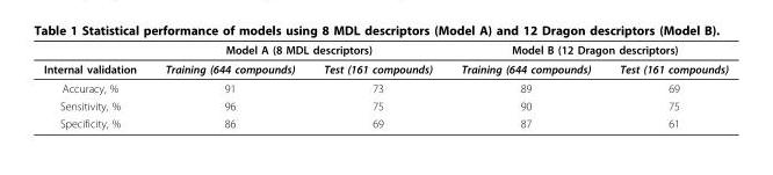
<table><thead><tr><td rowspan="2">Internal validation</td><td colspan="2">Model A (8 MDL descriptors)</td><td colspan="2">Model B (12 Dragon descriptors)</td></tr><tr><td>Training (644 compounds)</td><td>Test (161 compounds)</td><td>Training (644 compounds)</td><td>Test (161 compounds)</td></tr></thead><tbody><tr><td>Accuracy, %</td><td>91</td><td>73</td><td>89</td><td>69</td></tr><tr><td>Sensitivity, %</td><td>96</td><td>75</td><td>90</td><td>75</td></tr><tr><td>Specificity, %</td><td>86</td><td>69</td><td>87</td><td>61</td></tr></tbody></table>